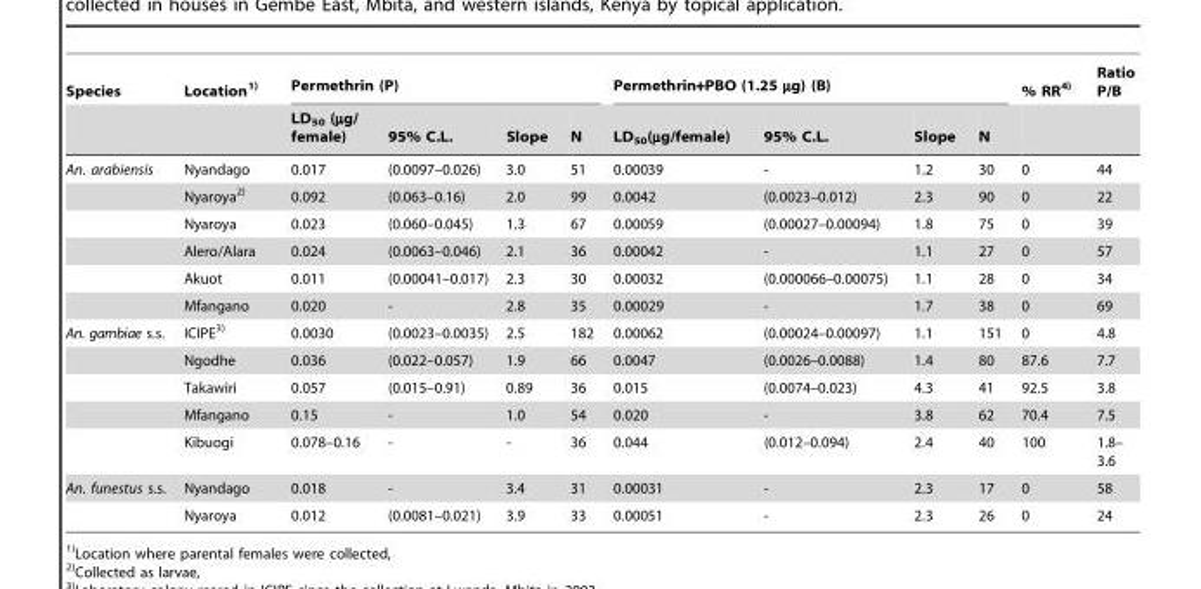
<table><thead><tr><td rowspan="2">Species</td><td rowspan="2">Location1)</td><td colspan="4">Permethrin (P)</td><td colspan="4">Permethrin+PBO (1.25 µg) (B)</td><td rowspan="2">% RR4)</td><td rowspan="2">Ratio P/B</td></tr><tr><td>LD<sub>50</sub> (µg/ female)</td><td>95% C.L.</td><td>Slope</td><td>N</td><td>LD<sub>50</sub>(µg/female)</td><td>95% C.L.</td><td>Slope</td><td>N</td></tr></thead><tbody><tr><td rowspan="6">An. arabiensis</td><td>Nyandago</td><td>0.017</td><td>(0.0097–0.026)</td><td>3.0</td><td>51</td><td>0.00039</td><td>-</td><td>1.2</td><td>30</td><td>0</td><td>44</td></tr><tr><td>Nyaroya2)</td><td>0.092</td><td>(0.063–0.16)</td><td>2.0</td><td>99</td><td>0.0042</td><td>(0.0023–0.012)</td><td>2.3</td><td>90</td><td>0</td><td>22</td></tr><tr><td>Nyaroya</td><td>0.023</td><td>(0.060–0.045)</td><td>1.3</td><td>67</td><td>0.00059</td><td>(0.00027–0.00094)</td><td>1.8</td><td>75</td><td>0</td><td>39</td></tr><tr><td>Alero/Alara</td><td>0.024</td><td>(0.0063–0.046)</td><td>2.1</td><td>36</td><td>0.00042</td><td>-</td><td>1.1</td><td>27</td><td>0</td><td>57</td></tr><tr><td>Akuot</td><td>0.011</td><td>(0.00041–0.017)</td><td>2.3</td><td>30</td><td>0.00032</td><td>(0.000066–0.00075)</td><td>1.1</td><td>28</td><td>0</td><td>34</td></tr><tr><td>Mfangano</td><td>0.020</td><td>-</td><td>2.8</td><td>35</td><td>0.00029</td><td>-</td><td>1.7</td><td>38</td><td>0</td><td>69</td></tr><tr><td rowspan="5">An. gambiae s.s.</td><td>ICIPE3)</td><td>0.0030</td><td>(0.0023–0.0035)</td><td>2.5</td><td>182</td><td>0.00062</td><td>(0.00024–0.00097)</td><td>1.1</td><td>151</td><td>0</td><td>4.8</td></tr><tr><td>Ngodhe</td><td>0.036</td><td>(0.022–0.057)</td><td>1.9</td><td>66</td><td>0.0047</td><td>(0.0026–0.0088)</td><td>1.4</td><td>80</td><td>87.6</td><td>7.7</td></tr><tr><td>Takawiri</td><td>0.057</td><td>(0.015–0.91)</td><td>0.89</td><td>36</td><td>0.015</td><td>(0.0074–0.023)</td><td>4.3</td><td>41</td><td>92.5</td><td>3.8</td></tr><tr><td>Mfangano</td><td>0.15</td><td>-</td><td>1.0</td><td>54</td><td>0.020</td><td>-</td><td>3.8</td><td>62</td><td>70.4</td><td>7.5</td></tr><tr><td>Kibuogi</td><td>0.078–0.16</td><td>-</td><td>-</td><td>36</td><td>0.044</td><td>(0.012–0.094)</td><td>2.4</td><td>40</td><td>100</td><td>1.8– 3.6</td></tr><tr><td rowspan="2">An. funestus s.s.</td><td>Nyandago</td><td>0.018</td><td>-</td><td>3.4</td><td>31</td><td>0.00031</td><td>-</td><td>2.3</td><td>17</td><td>0</td><td>58</td></tr><tr><td>Nyaroya</td><td>0.012</td><td>(0.0081–0.021)</td><td>3.9</td><td>33</td><td>0.00051</td><td>-</td><td>2.3</td><td>26</td><td>0</td><td>24</td></tr></tbody></table>